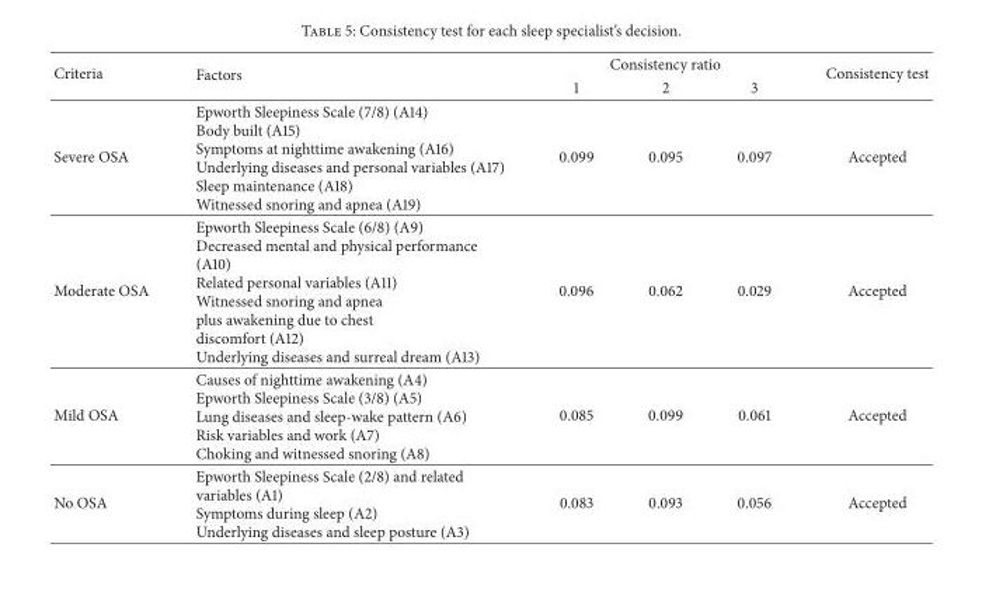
<table><thead><tr><td rowspan="2">Criteria</td><td rowspan="2">Factors</td><td colspan="3">Consistency ratio</td><td rowspan="2">Consistency test</td></tr><tr><td>1</td><td>2</td><td>3</td></tr></thead><tbody><tr><td>Severe OSA</td><td>Epworth Sleepiness Scale (7/8) (A14) Body built (A15) Symptoms at nighttime awakening (A16) Underlying diseases and personal variables (A17) Sleep maintenance (A18) Witnessed snoring and apnea (A19)</td><td>0.099</td><td>0.095</td><td>0.097</td><td>Accepted</td></tr><tr><td>Moderate OSA</td><td>Epworth Sleepiness Scale (6/8) (A9) Decreased mental and physical performance (A10) Related personal variables (A11) Witnessed snoring and apnea plus awakening due to chest discomfort (A12) Underlying diseases and surreal dream (A13)</td><td>0.096</td><td>0.062</td><td>0.029</td><td>Accepted</td></tr><tr><td>Mild OSA</td><td>Causes of nighttime awakening (A4) Epworth Sleepiness Scale (3/8) (A5) Lung diseases and sleep-wake pattern (A6) Risk variables and work (A7) Choking and witnessed snoring (A8)</td><td>0.085</td><td>0.099</td><td>0.061</td><td>Accepted</td></tr><tr><td>No OSA</td><td>Epworth Sleepiness Scale (2/8) and related variables (A1) Symptoms during sleep (A2) Underlying diseases and sleep posture (A3)</td><td>0.083</td><td>0.093</td><td>0.056</td><td>Accepted</td></tr></tbody></table>